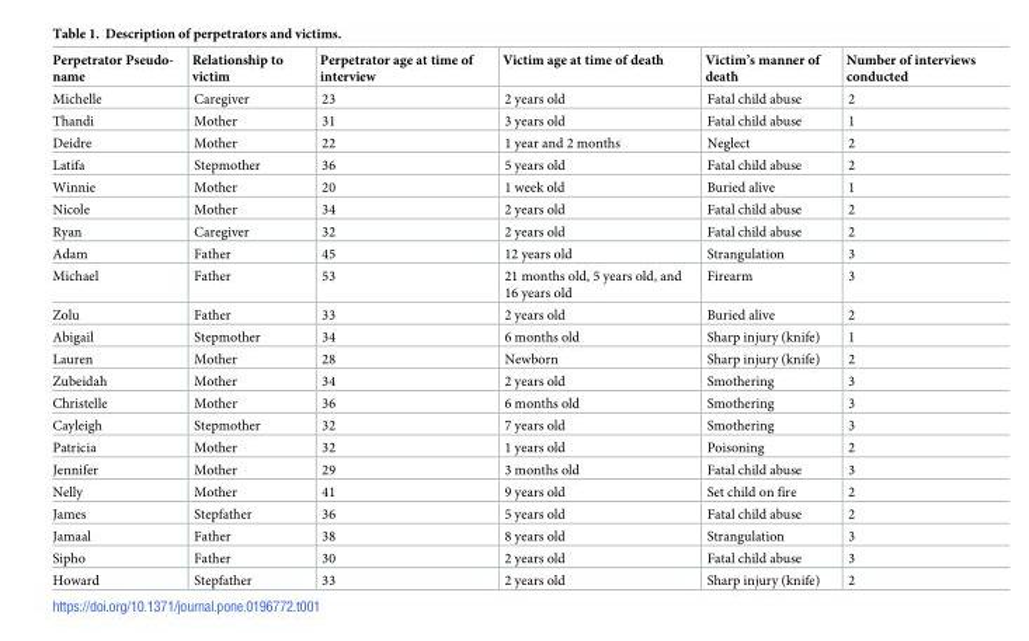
<table><thead><tr><td>Perpetrator Pseudo- name</td><td>Relationship to victim</td><td>Perpetrator age at time of interview</td><td>Victim age at time of death</td><td>Victim’s manner of death</td><td>Number of interviews conducted</td></tr></thead><tbody><tr><td>Michelle</td><td>Caregiver</td><td>23</td><td>2 years old</td><td>Fatal child abuse</td><td>2</td></tr><tr><td>Thandi</td><td>Mother</td><td>31</td><td>3 years old</td><td>Fatal child abuse</td><td>1</td></tr><tr><td>Deidre</td><td>Mother</td><td>22</td><td>1 year and 2 months</td><td>Neglect</td><td>2</td></tr><tr><td>Latifa</td><td>Stepmother</td><td>36</td><td>5 years old</td><td>Fatal child abuse</td><td>2</td></tr><tr><td>Winnie</td><td>Mother</td><td>20</td><td>1 week old</td><td>Buried alive</td><td>1</td></tr><tr><td>Nicole</td><td>Mother</td><td>34</td><td>2 years old</td><td>Fatal child abuse</td><td>2</td></tr><tr><td>Ryan</td><td>Caregiver</td><td>32</td><td>2 years old</td><td>Fatal child abuse</td><td>2</td></tr><tr><td>Adam</td><td>Father</td><td>45</td><td>12 years old</td><td>Strangulation</td><td>3</td></tr><tr><td>Michael</td><td>Father</td><td>53</td><td>21 months old, 5 years old, and 16 years old</td><td>Firearm</td><td>3</td></tr><tr><td>Zolu</td><td>Father</td><td>33</td><td>2 years old</td><td>Buried alive</td><td>2</td></tr><tr><td>Abigail</td><td>Stepmother</td><td>34</td><td>6 months old</td><td>Sharp injury (knife)</td><td>1</td></tr><tr><td>Lauren</td><td>Mother</td><td>28</td><td>Newborn</td><td>Sharp injury (knife)</td><td>2</td></tr><tr><td>Zubeidah</td><td>Mother</td><td>34</td><td>2 years old</td><td>Smothering</td><td>3</td></tr><tr><td>Christelle</td><td>Mother</td><td>36</td><td>6 months old</td><td>Smothering</td><td>3</td></tr><tr><td>Cayleigh</td><td>Stepmother</td><td>32</td><td>7 years old</td><td>Smothering</td><td>3</td></tr><tr><td>Patricia</td><td>Mother</td><td>32</td><td>1 years old</td><td>Poisoning</td><td>2</td></tr><tr><td>Jennifer</td><td>Mother</td><td>29</td><td>3 months old</td><td>Fatal child abuse</td><td>3</td></tr><tr><td>Nelly</td><td>Mother</td><td>41</td><td>9 years old</td><td>Set child on fire</td><td>2</td></tr><tr><td>James</td><td>Stepfather</td><td>36</td><td>5 years old</td><td>Fatal child abuse</td><td>2</td></tr><tr><td>Jamaal</td><td>Father</td><td>38</td><td>8 years old</td><td>Strangulation</td><td>3</td></tr><tr><td>Sipho</td><td>Father</td><td>30</td><td>2 years old</td><td>Fatal child abuse</td><td>3</td></tr><tr><td>Howard</td><td>Stepfather</td><td>33</td><td>2 years old</td><td>Sharp injury (knife)</td><td>2</td></tr></tbody></table>